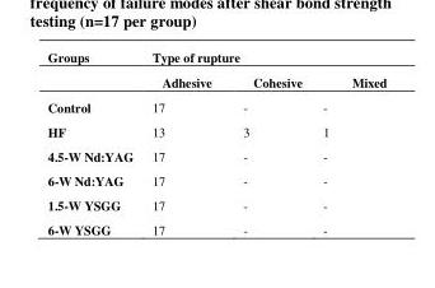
<table><tbody><tr><td rowspan="2">Groups</td><td>Type of rupture</td><td></td><td></td></tr><tr><td>Adhesive</td><td>Cohesive</td><td>Mixed</td></tr><tr><td>Control</td><td>17</td><td>-</td><td>-</td></tr><tr><td>HF</td><td>13</td><td>3</td><td>1</td></tr><tr><td>4.5-W Nd:YAG</td><td>17</td><td>-</td><td>-</td></tr><tr><td>6-W Nd:YAG</td><td>17</td><td>-</td><td>-</td></tr><tr><td>1.5-W YSGG</td><td>17</td><td>-</td><td>-</td></tr><tr><td>6-W YSGG</td><td>17</td><td>-</td><td>-</td></tr></tbody></table>